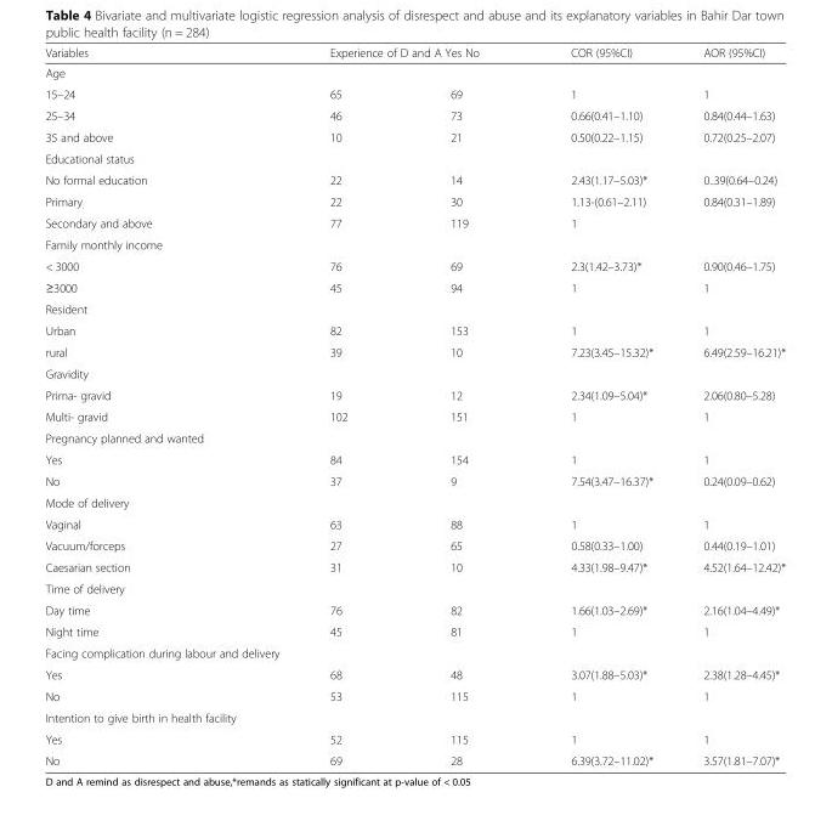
<table><thead><tr><td rowspan="2">Variables Age</td><td colspan="2">Experience of D and A Yes No</td><td rowspan="2">COR (95%CI)</td><td rowspan="2">AOR (95%CI)</td></tr><tr><td></td><td></td></tr></thead><tbody><tr><td>15–24</td><td>65</td><td>69</td><td>1</td><td>1</td></tr><tr><td>25–34</td><td>46</td><td>73</td><td>0.66(0.41–1.10)</td><td>0.84(0.44–1.63)</td></tr><tr><td>35 and above</td><td>10</td><td>21</td><td>0.50(0.22–1.15)</td><td>0.72(0.25–2.07)</td></tr><tr><td colspan="5">Educational status</td></tr><tr><td>No formal education</td><td>22</td><td>14</td><td>2.43(1.17–5.03)*</td><td>0..39(0.64–0.24)</td></tr><tr><td>Primary</td><td>22</td><td>30</td><td>1.13-(0.61–2.11)</td><td>0.84(0.31–1.89)</td></tr><tr><td>Secondary and above</td><td>77</td><td>119</td><td>1</td><td></td></tr><tr><td colspan="5">Family monthly income</td></tr><tr><td>&lt; 3000</td><td>76</td><td>69</td><td>2.3(1.42–3.73)*</td><td>0.90(0.46–1.75)</td></tr><tr><td>≥3000</td><td>45</td><td>94</td><td>1</td><td>1</td></tr><tr><td colspan="5">Resident</td></tr><tr><td>Urban</td><td>82</td><td>153</td><td>1</td><td>1</td></tr><tr><td>rural</td><td>39</td><td>10</td><td>7.23(3.45–15.32)*</td><td>6.49(2.59–16.21)*</td></tr><tr><td colspan="5">Gravidity</td></tr><tr><td>Prima- gravid</td><td>19</td><td>12</td><td>2.34(1.09–5.04)*</td><td>2.06(0.80–5.28)</td></tr><tr><td>Multi- gravid</td><td>102</td><td>151</td><td>1</td><td>1</td></tr><tr><td colspan="5">Pregnancy planned and wanted</td></tr><tr><td>Yes</td><td>84</td><td>154</td><td>1</td><td>1</td></tr><tr><td>No</td><td>37</td><td>9</td><td>7.54(3.47–16.37)*</td><td>0.24(0.09–0.62)</td></tr><tr><td colspan="5">Mode of delivery</td></tr><tr><td>Vaginal</td><td>63</td><td>88</td><td>1</td><td>1</td></tr><tr><td>Vacuum/forceps</td><td>27</td><td>65</td><td>0.58(0.33–1.00)</td><td>0.44(0.19–1.01)</td></tr><tr><td>Caesarian section</td><td>31</td><td>10</td><td>4.33(1.98–9.47)*</td><td>4.52(1.64–12.42)*</td></tr><tr><td colspan="5">Time of delivery</td></tr><tr><td>Day time</td><td>76</td><td>82</td><td>1.66(1.03–2.69)*</td><td>2.16(1.04–4.49)*</td></tr><tr><td>Night time</td><td>45</td><td>81</td><td>1</td><td>1</td></tr><tr><td colspan="5">Facing complication during labour and delivery</td></tr><tr><td>Yes</td><td>68</td><td>48</td><td>3.07(1.88–5.03)*</td><td>2.38(1.28–4.45)*</td></tr><tr><td>No</td><td>53</td><td>115</td><td>1</td><td>1</td></tr><tr><td colspan="5">Intention to give birth in health facility</td></tr><tr><td>Yes</td><td>52</td><td>115</td><td>1</td><td>1</td></tr><tr><td>No</td><td>69</td><td>28</td><td>6.39(3.72–11.02)*</td><td>3.57(1.81–7.07)*</td></tr></tbody></table>